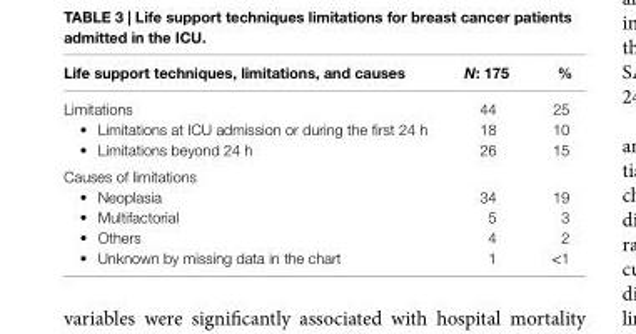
<table><thead><tr><td>life support techniques, limitations, and causes</td><td>N: 175</td><td>%</td></tr></thead><tbody><tr><td>Limitations</td><td>44</td><td>25</td></tr><tr><td>• Limitations at ICU admission or during the first 24 h</td><td>18</td><td>10</td></tr><tr><td>• Limitations beyond 24 h</td><td>26</td><td>15</td></tr><tr><td colspan="3">Causes of limitations</td></tr><tr><td>• Neoplasia</td><td>34</td><td>19</td></tr><tr><td>• Multifactorial</td><td>5</td><td>3</td></tr><tr><td>• Others</td><td>4</td><td>2</td></tr><tr><td>• Unknown by missing data in the chart</td><td>1</td><td>&lt;1</td></tr></tbody></table>